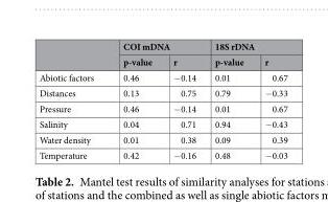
<table><thead><tr><td rowspan="2"></td><td colspan="2">COI mDNA</td><td colspan="2">18S rDNA</td></tr><tr><td>p-value</td><td>r</td><td>p-value</td><td>r</td></tr></thead><tbody><tr><td>Abiotic factors</td><td>0.46</td><td>−0.14</td><td>0.01</td><td>0.67</td></tr><tr><td>Distances</td><td>0.13</td><td>0.75</td><td>0.79</td><td>−0.33</td></tr><tr><td>Pressure</td><td>0.46</td><td>−0.14</td><td>0.01</td><td>0.67</td></tr><tr><td>Salinity</td><td>0.04</td><td>0.71</td><td>0.94</td><td>−0.43</td></tr><tr><td>Water density</td><td>0.01</td><td>0.38</td><td>0.09</td><td>0.39</td></tr><tr><td>Temperature</td><td>0.42</td><td>−0.16</td><td>0.48</td><td>−0.03</td></tr></tbody></table>